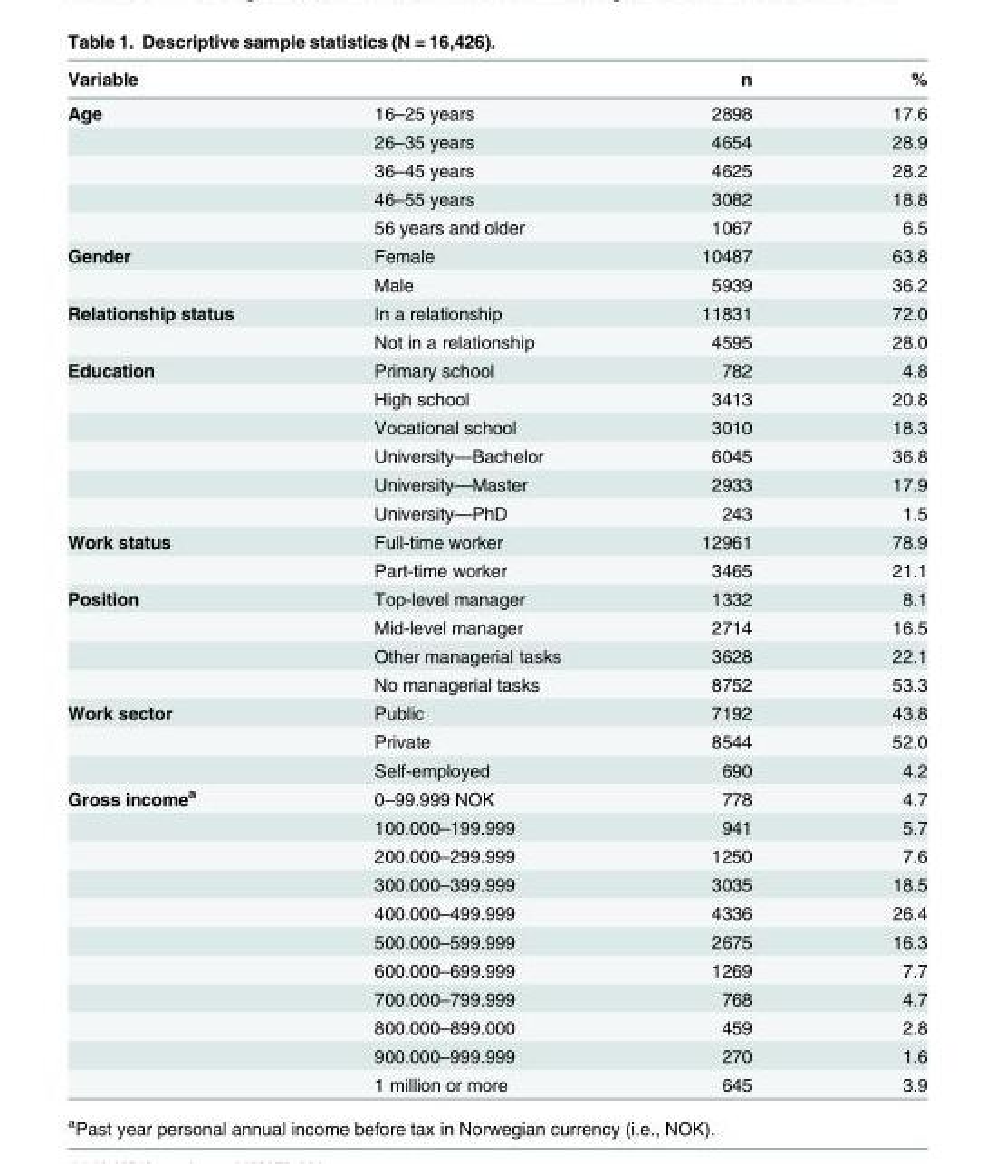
<table><thead><tr><td>Variable</td><td></td><td>n</td><td>%</td></tr></thead><tbody><tr><td rowspan="5">Age</td><td>16–25 years</td><td>2898</td><td>17.6</td></tr><tr><td>26–35 years</td><td>4654</td><td>28.9</td></tr><tr><td>36–45 years</td><td>4625</td><td>28.2</td></tr><tr><td>46–55 years</td><td>3082</td><td>18.8</td></tr><tr><td>56 years and older</td><td>1067</td><td>6.5</td></tr><tr><td rowspan="2">Gender</td><td>Female</td><td>10487</td><td>63.8</td></tr><tr><td>Male</td><td>5939</td><td>36.2</td></tr><tr><td rowspan="2">Relationship status</td><td>In a relationship</td><td>11831</td><td>72.0</td></tr><tr><td>Not in a relationship</td><td>4595</td><td>28.0</td></tr><tr><td rowspan="6">Education</td><td>Primary school</td><td>782</td><td>4.8</td></tr><tr><td>High school</td><td>3413</td><td>20.8</td></tr><tr><td>Vocational school</td><td>3010</td><td>18.3</td></tr><tr><td>University—Bachelor</td><td>6045</td><td>36.8</td></tr><tr><td>University—Master</td><td>2933</td><td>17.9</td></tr><tr><td>University—PhD</td><td>243</td><td>1.5</td></tr><tr><td rowspan="2">Work status</td><td>Full-time worker</td><td>12961</td><td>78.9</td></tr><tr><td>Part-time worker</td><td>3465</td><td>21.1</td></tr><tr><td rowspan="4">Position</td><td>Top-level manager</td><td>1332</td><td>8.1</td></tr><tr><td>Mid-level manager</td><td>2714</td><td>16.5</td></tr><tr><td>Other managerial tasks</td><td>3628</td><td>22.1</td></tr><tr><td>No managerial tasks</td><td>8752</td><td>53.3</td></tr><tr><td rowspan="3">Work sector</td><td>Public</td><td>7192</td><td>43.8</td></tr><tr><td>Private</td><td>8544</td><td>52.0</td></tr><tr><td>Self-employed</td><td>690</td><td>4.2</td></tr><tr><td rowspan="11">Gross incomea</td><td>0–99.999 NOK</td><td>778</td><td>4.7</td></tr><tr><td>100.000–199.999</td><td>941</td><td>5.7</td></tr><tr><td>200.000–299.999</td><td>1250</td><td>7.6</td></tr><tr><td>300.000–399.999</td><td>3035</td><td>18.5</td></tr><tr><td>400.000–499.999</td><td>4336</td><td>26.4</td></tr><tr><td>500.000–599.999</td><td>2675</td><td>16.3</td></tr><tr><td>600.000–699.999</td><td>1269</td><td>7.7</td></tr><tr><td>700.000–799.999</td><td>768</td><td>4.7</td></tr><tr><td>800.000–899.000</td><td>459</td><td>2.8</td></tr><tr><td>900.000–999.999</td><td>270</td><td>1.6</td></tr><tr><td>1 million or more</td><td>645</td><td>3.9</td></tr></tbody></table>